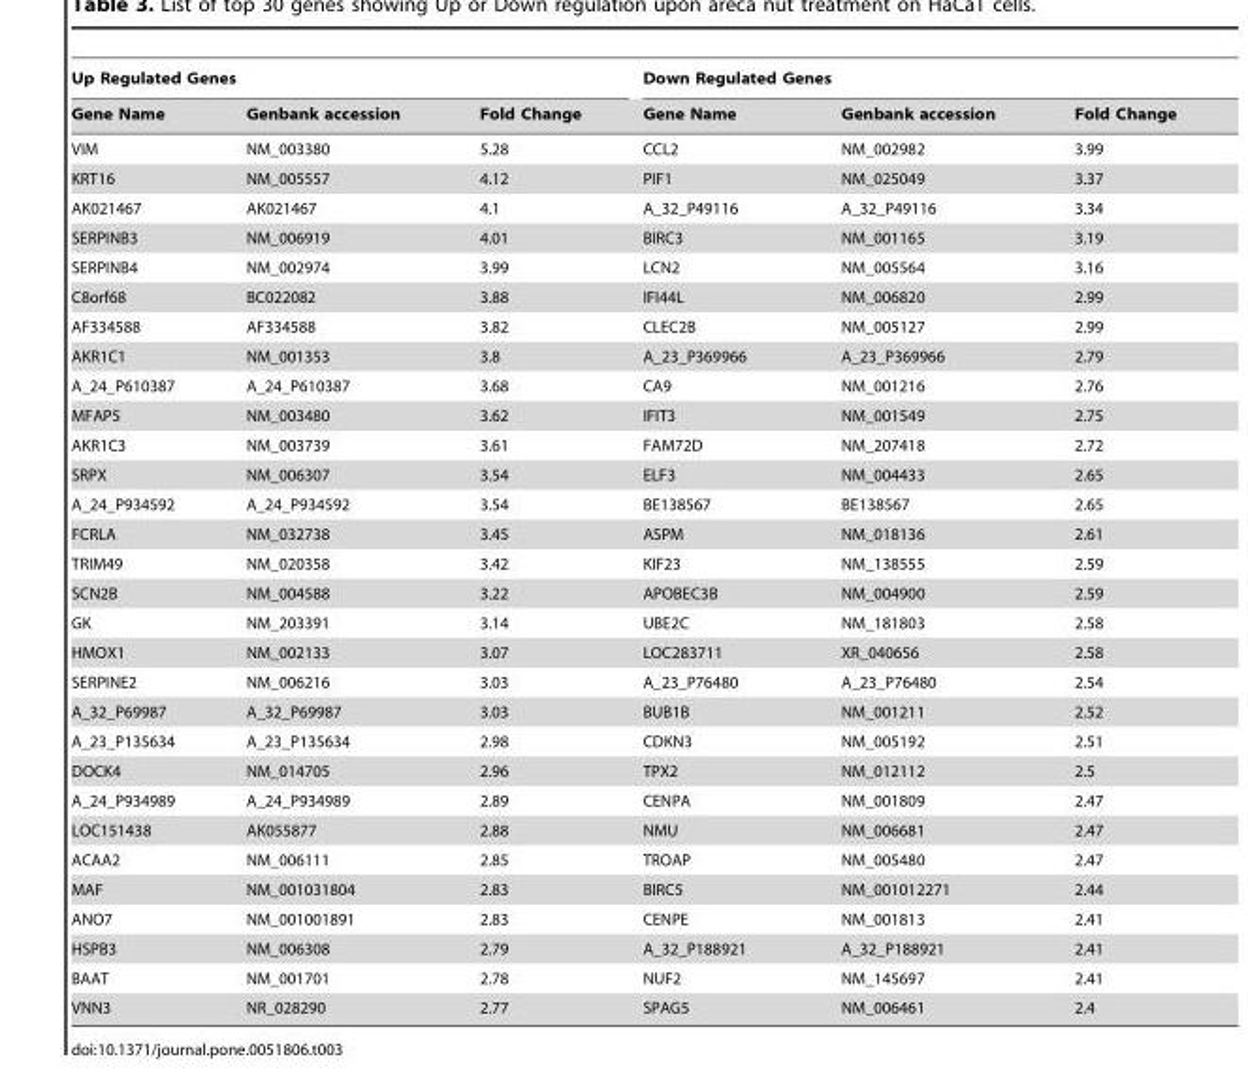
<table><thead><tr><td colspan="3">Up Regulated Genes</td><td colspan="3">Down Regulated Genes</td></tr><tr><td>Gene Name</td><td>Genbank accession</td><td>Fold Change</td><td>Gene Name</td><td>Genbank accession</td><td>Fold Change</td></tr></thead><tbody><tr><td>VIM</td><td>NM_003380</td><td>5.28</td><td>CCL2</td><td>NM_002982</td><td>3.99</td></tr><tr><td>KRT16</td><td>NM_005557</td><td>4.12</td><td>PIF1</td><td>NM_025049</td><td>3.37</td></tr><tr><td>AK021467</td><td>AK021467</td><td>4.1</td><td>A_32_P49116</td><td>A_32_P49116</td><td>3.34</td></tr><tr><td>SERPINB3</td><td>NM_006919</td><td>4.01</td><td>BIRC3</td><td>NM_001165</td><td>3.19</td></tr><tr><td>SERPINB4</td><td>NM_002974</td><td>3.99</td><td>LCN2</td><td>NM_005564</td><td>3.16</td></tr><tr><td>C8orf68</td><td>BC022082</td><td>3.88</td><td>IFI44L</td><td>NM_006820</td><td>2.99</td></tr><tr><td>AF334588</td><td>AF334588</td><td>3.82</td><td>CLEC2B</td><td>NM_005127</td><td>2.99</td></tr><tr><td>AKR1C1</td><td>NM_001353</td><td>3.8</td><td>A_23_P369966</td><td>A_23_P369966</td><td>2.79</td></tr><tr><td>A_24_P610387</td><td>A_24_P610387</td><td>3.68</td><td>CA9</td><td>NM_001216</td><td>2.76</td></tr><tr><td>MFAP5</td><td>NM_003480</td><td>3.62</td><td>IFIT3</td><td>NM_001549</td><td>2.75</td></tr><tr><td>AKR1C3</td><td>NM_003739</td><td>3.61</td><td>FAM72D</td><td>NM_207418</td><td>2.72</td></tr><tr><td>SRPX</td><td>NM_006307</td><td>3.54</td><td>ELF3</td><td>NM_004433</td><td>2.65</td></tr><tr><td>A_24_P934592</td><td>A_24_P934592</td><td>3.54</td><td>BE138567</td><td>BE138567</td><td>2.65</td></tr><tr><td>FCRLA</td><td>NM_032738</td><td>3.45</td><td>ASPM</td><td>NM_018136</td><td>2.61</td></tr><tr><td>TRIM49</td><td>NM_020358</td><td>3.42</td><td>KIF23</td><td>NM_138555</td><td>2.59</td></tr><tr><td>SCN2B</td><td>NM_004588</td><td>3.22</td><td>APOBEC3B</td><td>NM_004900</td><td>2.59</td></tr><tr><td>GK</td><td>NM_203391</td><td>3.14</td><td>UBE2C</td><td>NM_181803</td><td>2.58</td></tr><tr><td>HMOX1</td><td>NM_002133</td><td>3.07</td><td>LOC283711</td><td>XR_040656</td><td>2.58</td></tr><tr><td>SERPINE2</td><td>NM_006216</td><td>3.03</td><td>A_23_P76480</td><td>A_23_P76480</td><td>2.54</td></tr><tr><td>A_32_P69987</td><td>A_32_P69987</td><td>3.03</td><td>BUB1B</td><td>NM_001211</td><td>2.52</td></tr><tr><td>A_23_P135634</td><td>A_23_P135634</td><td>2.98</td><td>CDKN3</td><td>NM_005192</td><td>2.51</td></tr><tr><td>DOCK4</td><td>NM_014705</td><td>2.96</td><td>TPX2</td><td>NM_012112</td><td>2.5</td></tr><tr><td>A_24_P934989</td><td>A_24_P934989</td><td>2.89</td><td>CENPA</td><td>NM_001809</td><td>2.47</td></tr><tr><td>LOC151438</td><td>AK055877</td><td>2.88</td><td>NMU</td><td>NM_006681</td><td>2.47</td></tr><tr><td>ACAA2</td><td>NM_006111</td><td>2.85</td><td>TROAP</td><td>NM_005480</td><td>2.47</td></tr><tr><td>MAF</td><td>NM_001031804</td><td>2.83</td><td>BIRC5</td><td>NM_001012271</td><td>2.44</td></tr><tr><td>ANO7</td><td>NM_001001891</td><td>2.83</td><td>CENPE</td><td>NM_001813</td><td>2.41</td></tr><tr><td>HSPB3</td><td>NM_006308</td><td>2.79</td><td>A_32_P188921</td><td>A_32_P188921</td><td>2.41</td></tr><tr><td>BAAT</td><td>NM_001701</td><td>2.78</td><td>NUF2</td><td>NM_145697</td><td>2.41</td></tr><tr><td>VNN3</td><td>NR_028290</td><td>2.77</td><td>SPAG5</td><td>NM_006461</td><td>2.4</td></tr></tbody></table>